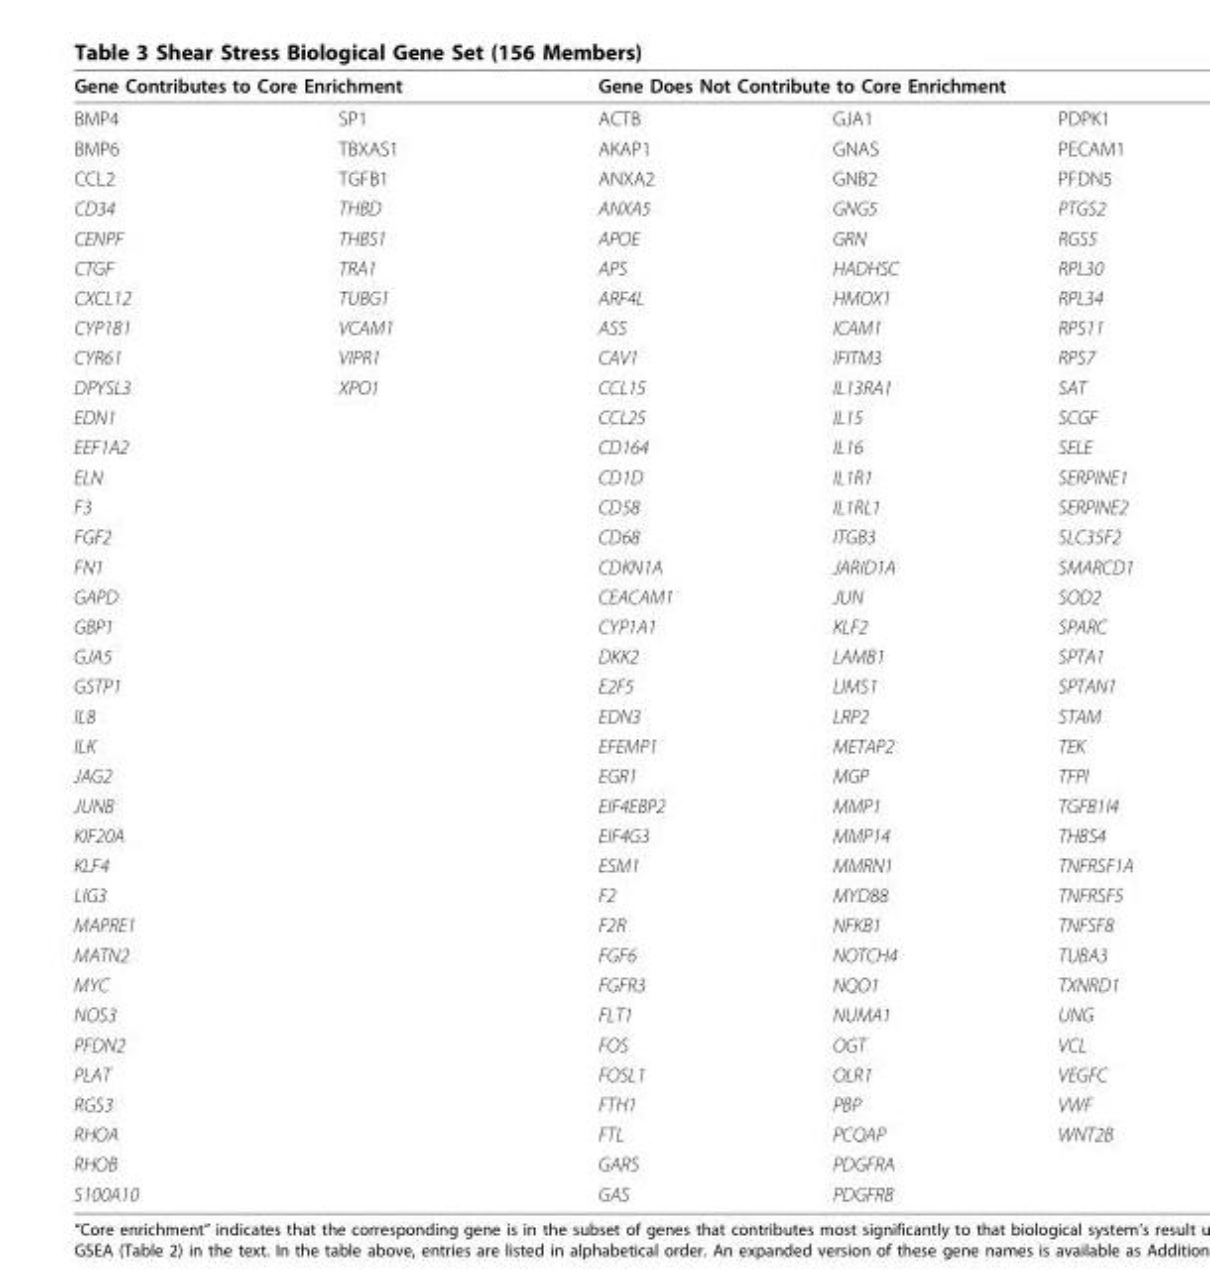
<table><thead><tr><td colspan="2">Gene Contributes to Core Enrichment</td><td colspan="3">Gene Does Not Contribute to Core Enrichment</td></tr><tr><td>BMP4</td><td>SP1</td><td>ACTB</td><td>GJA1</td><td>PDPK1</td></tr></thead><tbody><tr><td>BMP6</td><td>TBXAS1</td><td>AKAP1</td><td>GNAS</td><td>PECAM1</td></tr><tr><td>CCL2</td><td>TGFB1</td><td>ANXA2</td><td>GNB2</td><td>PFDN5</td></tr><tr><td>CD34</td><td>THBD</td><td>ANXA5</td><td>GNG5</td><td>PTGS2</td></tr><tr><td>CENPF</td><td>THBS1</td><td>APOE</td><td>GRN</td><td>RGS5</td></tr><tr><td>CTGF</td><td>TRA1</td><td>APS</td><td>HADHSC</td><td>RPL30</td></tr><tr><td>CXCL12</td><td>TUBG1</td><td>ARF4L</td><td>HMOX1</td><td>RPL34</td></tr><tr><td>CYP1B1</td><td>VCAM1</td><td>ASS</td><td>ICAM1</td><td>RPS11</td></tr><tr><td>CYR61</td><td>VIPR1</td><td>CAV1</td><td>IFITM3</td><td>RPS7</td></tr><tr><td>DPYSL3</td><td>XPO1</td><td>CCL15</td><td>IL13RA1</td><td>SAT</td></tr><tr><td>EDN1</td><td></td><td>CCL25</td><td>IL15</td><td>SCGF</td></tr><tr><td>EEF1A2</td><td></td><td>CD164</td><td>IL16</td><td>SELE</td></tr><tr><td>ELN</td><td></td><td>CD1D</td><td>IL1R1</td><td>SERPINE1</td></tr><tr><td>F3</td><td></td><td>CD58</td><td>IL1RL1</td><td>SERPINE2</td></tr><tr><td>FGF2</td><td></td><td>CD68</td><td>ITGB3</td><td>SLC35F2</td></tr><tr><td>FN1</td><td></td><td>CDKN1A</td><td>JARID1A</td><td>SMARCD1</td></tr><tr><td>GAPD</td><td></td><td>CEACAM1</td><td>JUN</td><td>SOD2</td></tr><tr><td>GBP1</td><td></td><td>CYP1A1</td><td>KLF2</td><td>SPARC</td></tr><tr><td>GJA5</td><td></td><td>DKK2</td><td>LAMB1</td><td>SPTA1</td></tr><tr><td>GSTP1</td><td></td><td>E2F5</td><td>LIMS1</td><td>SPTAN1</td></tr><tr><td>IL8</td><td></td><td>EDN3</td><td>LRP2</td><td>STAM</td></tr><tr><td>ILK</td><td></td><td>EFEMP1</td><td>METAP2</td><td>TEK</td></tr><tr><td>JAG2</td><td></td><td>EGR1</td><td>MGP</td><td>TFPI</td></tr><tr><td>JUNB</td><td></td><td>EIF4EBP2</td><td>MMP1</td><td>TGFB1I4</td></tr><tr><td>KIF20A</td><td></td><td>EIF4G3</td><td>MMP14</td><td>THBS4</td></tr><tr><td>KLF4</td><td></td><td>ESM1</td><td>MMRN1</td><td>TNFRSF1A</td></tr><tr><td>LIG3</td><td></td><td>F2</td><td>MYD88</td><td>TNFRSF5</td></tr><tr><td>MAPRE1</td><td></td><td>F2R</td><td>NFKB1</td><td>TNFSF8</td></tr><tr><td>MATN2</td><td></td><td>FGF6</td><td>NOTCH4</td><td>TUBA3</td></tr><tr><td>MYC</td><td></td><td>FGFR3</td><td>NQO1</td><td>TXNRD1</td></tr><tr><td>NOS3</td><td></td><td>FLT1</td><td>NUMA1</td><td>UNG</td></tr><tr><td>PFDN2</td><td></td><td>FOS</td><td>OGT</td><td>VCL</td></tr><tr><td>PLAT</td><td></td><td>FOSL1</td><td>OLR1</td><td>VEGFC</td></tr><tr><td>RGS3</td><td></td><td>FTH1</td><td>PBP</td><td>VWF</td></tr><tr><td>RHOA</td><td></td><td>FTL</td><td>PCQAP</td><td>WNT2B</td></tr><tr><td>RHOB</td><td></td><td>GARS</td><td>PDGFRA</td><td></td></tr><tr><td>S100A10</td><td></td><td>GAS</td><td>PDGFRB</td><td></td></tr></tbody></table>